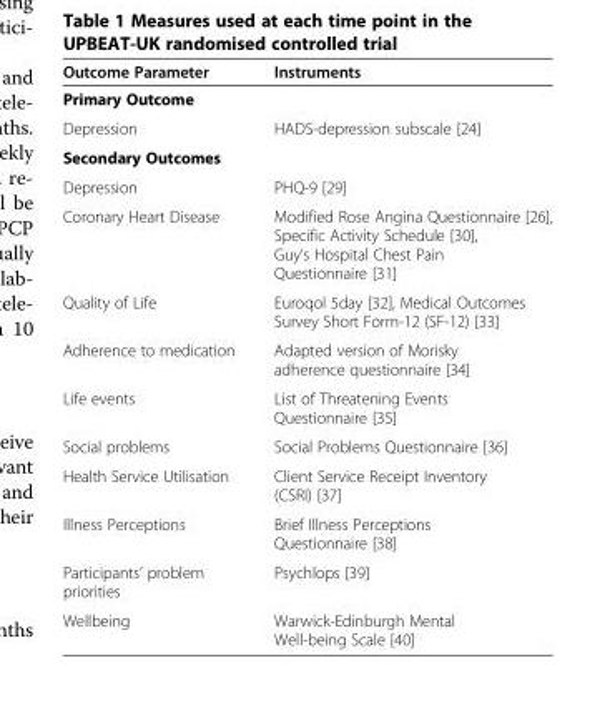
<table><thead><tr><td>Outcome Parameter</td><td>Instruments</td></tr></thead><tbody><tr><td colspan="2">Primary Outcome</td></tr><tr><td>Depression</td><td>HADS-depression subscale [24]</td></tr><tr><td colspan="2">Secondary Outcomes</td></tr><tr><td>Depression</td><td>PHQ-9 [29]</td></tr><tr><td>Coronary Heart Disease</td><td>Modified Rose Angina Questionnaire [26], Specific Activity Schedule [30], Guy’s Hospital Chest Pain Questionnaire [31]</td></tr><tr><td>Quality of Life</td><td>Euroqol 5day [32], Medical Outcomes Survey Short Form-12 (SF-12) [33]</td></tr><tr><td>Adherence to medication</td><td>Adapted version of Morisky adherence questionnaire [34]</td></tr><tr><td>Life events</td><td>List of Threatening Events Questionnaire [35]</td></tr><tr><td>Social problems</td><td>Social Problems Questionnaire [36]</td></tr><tr><td>Health Service Utilisation</td><td>Client Service Receipt Inventory (CSRI) [37]</td></tr><tr><td>Illness Perceptions</td><td>Brief Illness Perceptions Questionnaire [38]</td></tr><tr><td>Participants’ problem priorities</td><td>Psychlops [39]</td></tr><tr><td>Wellbeing</td><td>Warwick-Edinburgh Mental Well-being Scale [40]</td></tr></tbody></table>